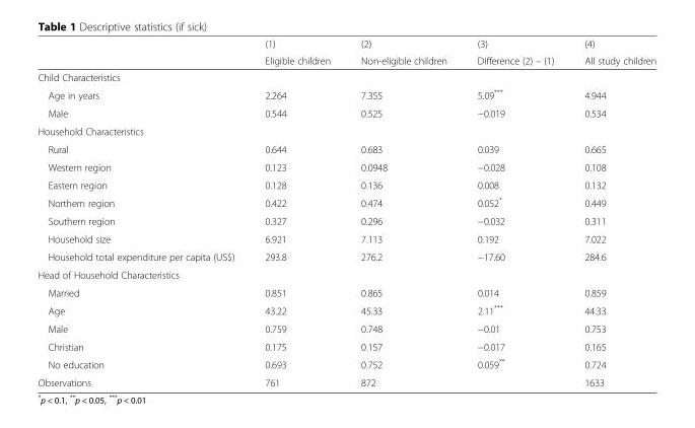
<table><thead><tr><td rowspan="2"></td><td rowspan="2">(1) Eligible children</td><td rowspan="2">(2) Non-eligible children</td><td rowspan="2">(3) Difference (2) – (1)</td><td rowspan="2">(4) All study children</td></tr><tr></tr></thead><tbody><tr><td colspan="5">Child Characteristics</td></tr><tr><td>Age in years</td><td>2.264</td><td>7.355</td><td>5.09***</td><td>4.944</td></tr><tr><td>Male</td><td>0.544</td><td>0.525</td><td>−0.019</td><td>0.534</td></tr><tr><td colspan="5">Household Characteristics</td></tr><tr><td>Rural</td><td>0.644</td><td>0.683</td><td>0.039</td><td>0.665</td></tr><tr><td>Western region</td><td>0.123</td><td>0.0948</td><td>−0.028</td><td>0.108</td></tr><tr><td>Eastern region</td><td>0.128</td><td>0.136</td><td>0.008</td><td>0.132</td></tr><tr><td>Northern region</td><td>0.422</td><td>0.474</td><td>0.052*</td><td>0.449</td></tr><tr><td>Southern region</td><td>0.327</td><td>0.296</td><td>−0.032</td><td>0.311</td></tr><tr><td>Household size</td><td>6.921</td><td>7.113</td><td>0.192</td><td>7.022</td></tr><tr><td>Household total expenditure per capita (US$)</td><td>293.8</td><td>276.2</td><td>−17.60</td><td>284.6</td></tr><tr><td colspan="5">Head of Household Characteristics</td></tr><tr><td>Married</td><td>0.851</td><td>0.865</td><td>0.014</td><td>0.859</td></tr><tr><td>Age</td><td>43.22</td><td>45.33</td><td>2.11***</td><td>44.33</td></tr><tr><td>Male</td><td>0.759</td><td>0.748</td><td>−0.01</td><td>0.753</td></tr><tr><td>Christian</td><td>0.175</td><td>0.157</td><td>−0.017</td><td>0.165</td></tr><tr><td>No education</td><td>0.693</td><td>0.752</td><td>0.059**</td><td>0.724</td></tr><tr><td>Observations</td><td>761</td><td>872</td><td></td><td>1633</td></tr></tbody></table>